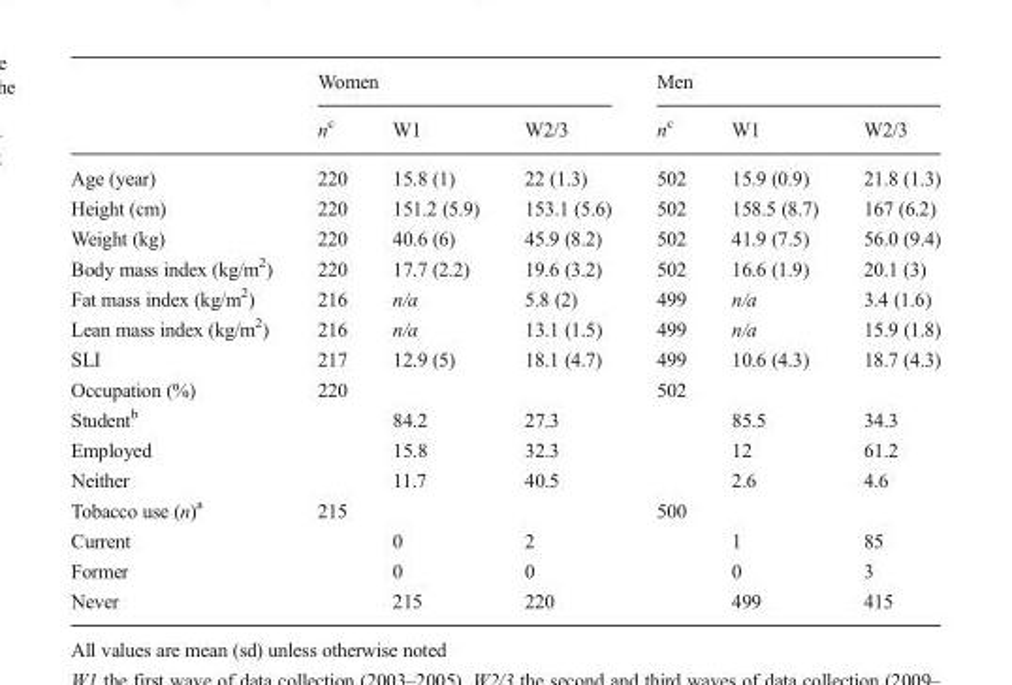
<table><thead><tr><td rowspan="2"></td><td colspan="3">Women</td><td colspan="3">Men</td></tr><tr><td>n<sup>c</sup></td><td>W1</td><td>W2/3</td><td>n<sup>c</sup></td><td>W1</td><td>W2/3</td></tr></thead><tbody><tr><td>Age (year)</td><td>220</td><td>15.8 (1)</td><td>22 (1.3)</td><td>502</td><td>15.9 (0.9)</td><td>21.8 (1.3)</td></tr><tr><td>Height (cm)</td><td>220</td><td>151.2 (5.9)</td><td>153.1 (5.6)</td><td>502</td><td>158.5 (8.7)</td><td>167 (6.2)</td></tr><tr><td>Weight (kg)</td><td>220</td><td>40.6 (6)</td><td>45.9 (8.2)</td><td>502</td><td>41.9 (7.5)</td><td>56.0 (9.4)</td></tr><tr><td>Body mass index (kg/m<sup>2</sup>)</td><td>220</td><td>17.7 (2.2)</td><td>19.6 (3.2)</td><td>502</td><td>16.6 (1.9)</td><td>20.1 (3)</td></tr><tr><td>Fat mass index (kg/m<sup>2</sup>)</td><td>216</td><td>n/a</td><td>5.8 (2)</td><td>499</td><td>n/a</td><td>3.4 (1.6)</td></tr><tr><td>Lean mass index (kg/m<sup>2</sup>)</td><td>216</td><td>n/a</td><td>13.1 (1.5)</td><td>499</td><td>n/a</td><td>15.9 (1.8)</td></tr><tr><td>SLI</td><td>217</td><td>12.9 (5)</td><td>18.1 (4.7)</td><td>499</td><td>10.6 (4.3)</td><td>18.7 (4.3)</td></tr><tr><td>Occupation (%)</td><td>220</td><td></td><td></td><td>502</td><td></td><td></td></tr><tr><td>Student<sup>b</sup></td><td></td><td>84.2</td><td>27.3</td><td></td><td>85.5</td><td>34.3</td></tr><tr><td>Employed</td><td></td><td>15.8</td><td>32.3</td><td></td><td>12</td><td>61.2</td></tr><tr><td>Neither</td><td></td><td>11.7</td><td>40.5</td><td></td><td>2.6</td><td>4.6</td></tr><tr><td>Tobacco use (n)<sup>a</sup></td><td>215</td><td></td><td></td><td>500</td><td></td><td></td></tr><tr><td>Current</td><td></td><td>0</td><td>2</td><td></td><td>1</td><td>85</td></tr><tr><td>Former</td><td></td><td>0</td><td>0</td><td></td><td>0</td><td>3</td></tr><tr><td>Never</td><td></td><td>215</td><td>220</td><td></td><td>499</td><td>415</td></tr></tbody></table>